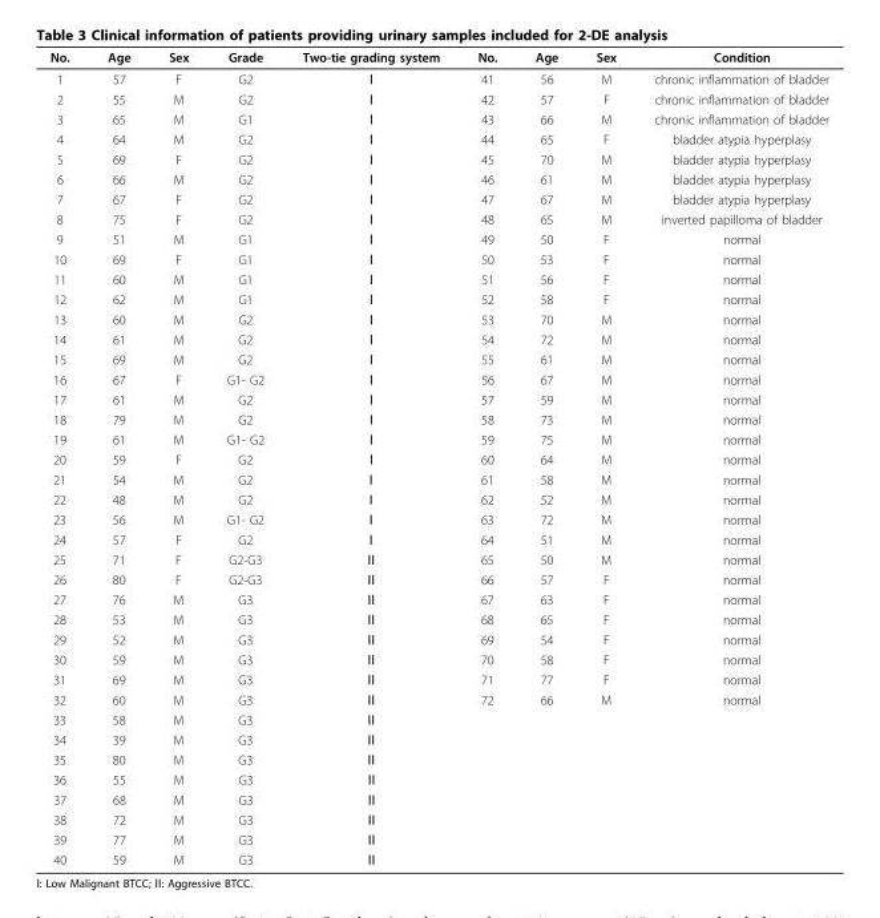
<table><thead><tr><td>No.</td><td>Age</td><td>Sex</td><td>Grade</td><td>Two-tie grading system</td><td>No.</td><td>Age</td><td>Sex</td><td>Condition</td></tr></thead><tbody><tr><td>1</td><td>57</td><td>F</td><td>G2</td><td>Ⅰ</td><td>41</td><td>56</td><td>M</td><td>chronic inflammation of bladder</td></tr><tr><td>2</td><td>55</td><td>M</td><td>G2</td><td>Ⅰ</td><td>42</td><td>57</td><td>F</td><td>chronic inflammation of bladder</td></tr><tr><td>3</td><td>65</td><td>M</td><td>G1</td><td>Ⅰ</td><td>43</td><td>66</td><td>M</td><td>chronic inflammation of bladder</td></tr><tr><td>4</td><td>64</td><td>M</td><td>G2</td><td>Ⅰ</td><td>44</td><td>65</td><td>F</td><td>bladder atypia hyperplasy</td></tr><tr><td>5</td><td>69</td><td>F</td><td>G2</td><td>Ⅰ</td><td>45</td><td>70</td><td>M</td><td>bladder atypia hyperplasy</td></tr><tr><td>6</td><td>66</td><td>M</td><td>G2</td><td>Ⅰ</td><td>46</td><td>61</td><td>M</td><td>bladder atypia hyperplasy</td></tr><tr><td>7</td><td>67</td><td>F</td><td>G2</td><td>Ⅰ</td><td>47</td><td>67</td><td>M</td><td>bladder atypia hyperplasy</td></tr><tr><td>8</td><td>75</td><td>F</td><td>G2</td><td>Ⅰ</td><td>48</td><td>65</td><td>M</td><td>inverted papilloma of bladder</td></tr><tr><td>9</td><td>51</td><td>M</td><td>G1</td><td>Ⅰ</td><td>49</td><td>50</td><td>F</td><td>normal</td></tr><tr><td>10</td><td>69</td><td>F</td><td>G1</td><td>Ⅰ</td><td>50</td><td>53</td><td>F</td><td>normal</td></tr><tr><td>11</td><td>60</td><td>M</td><td>G1</td><td>Ⅰ</td><td>51</td><td>56</td><td>F</td><td>normal</td></tr><tr><td>12</td><td>62</td><td>M</td><td>G1</td><td>Ⅰ</td><td>52</td><td>58</td><td>F</td><td>normal</td></tr><tr><td>13</td><td>60</td><td>M</td><td>G2</td><td>Ⅰ</td><td>53</td><td>70</td><td>M</td><td>normal</td></tr><tr><td>14</td><td>61</td><td>M</td><td>G2</td><td>Ⅰ</td><td>54</td><td>72</td><td>M</td><td>normal</td></tr><tr><td>15</td><td>69</td><td>M</td><td>G2</td><td>Ⅰ</td><td>55</td><td>61</td><td>M</td><td>normal</td></tr><tr><td>16</td><td>67</td><td>F</td><td>G1- G2</td><td>Ⅰ</td><td>56</td><td>67</td><td>M</td><td>normal</td></tr><tr><td>17</td><td>61</td><td>M</td><td>G2</td><td>Ⅰ</td><td>57</td><td>59</td><td>M</td><td>normal</td></tr><tr><td>18</td><td>79</td><td>M</td><td>G2</td><td>Ⅰ</td><td>58</td><td>73</td><td>M</td><td>normal</td></tr><tr><td>19</td><td>61</td><td>M</td><td>G1- G2</td><td>Ⅰ</td><td>59</td><td>75</td><td>M</td><td>normal</td></tr><tr><td>20</td><td>59</td><td>F</td><td>G2</td><td>Ⅰ</td><td>60</td><td>64</td><td>M</td><td>normal</td></tr><tr><td>21</td><td>54</td><td>M</td><td>G2</td><td>Ⅰ</td><td>61</td><td>58</td><td>M</td><td>normal</td></tr><tr><td>22</td><td>48</td><td>M</td><td>G2</td><td>Ⅰ</td><td>62</td><td>52</td><td>M</td><td>normal</td></tr><tr><td>23</td><td>56</td><td>M</td><td>G1- G2</td><td>Ⅰ</td><td>63</td><td>72</td><td>M</td><td>normal</td></tr><tr><td>24</td><td>57</td><td>F</td><td>G2</td><td>Ⅰ</td><td>64</td><td>51</td><td>M</td><td>normal</td></tr><tr><td>25</td><td>71</td><td>F</td><td>G2-G3</td><td>Ⅱ</td><td>65</td><td>50</td><td>M</td><td>normal</td></tr><tr><td>26</td><td>80</td><td>F</td><td>G2-G3</td><td>Ⅱ</td><td>66</td><td>57</td><td>F</td><td>normal</td></tr><tr><td>27</td><td>76</td><td>M</td><td>G3</td><td>Ⅱ</td><td>67</td><td>63</td><td>F</td><td>normal</td></tr><tr><td>28</td><td>53</td><td>M</td><td>G3</td><td>Ⅱ</td><td>68</td><td>65</td><td>F</td><td>normal</td></tr><tr><td>29</td><td>52</td><td>M</td><td>G3</td><td>Ⅱ</td><td>69</td><td>54</td><td>F</td><td>normal</td></tr><tr><td>30</td><td>59</td><td>M</td><td>G3</td><td>Ⅱ</td><td>70</td><td>58</td><td>F</td><td>normal</td></tr><tr><td>31</td><td>69</td><td>M</td><td>G3</td><td>Ⅱ</td><td>71</td><td>77</td><td>F</td><td>normal</td></tr><tr><td>32</td><td>60</td><td>M</td><td>G3</td><td>Ⅱ</td><td>72</td><td>66</td><td>M</td><td>normal</td></tr><tr><td>33</td><td>58</td><td>M</td><td>G3</td><td>Ⅱ</td><td></td><td></td><td></td><td></td></tr><tr><td>34</td><td>39</td><td>M</td><td>G3</td><td>Ⅱ</td><td></td><td></td><td></td><td></td></tr><tr><td>35</td><td>80</td><td>M</td><td>G3</td><td>Ⅱ</td><td></td><td></td><td></td><td></td></tr><tr><td>36</td><td>55</td><td>M</td><td>G3</td><td>Ⅱ</td><td></td><td></td><td></td><td></td></tr><tr><td>37</td><td>68</td><td>M</td><td>G3</td><td>Ⅱ</td><td></td><td></td><td></td><td></td></tr><tr><td>38</td><td>72</td><td>M</td><td>G3</td><td>Ⅱ</td><td></td><td></td><td></td><td></td></tr><tr><td>39</td><td>77</td><td>M</td><td>G3</td><td>Ⅱ</td><td></td><td></td><td></td><td></td></tr><tr><td>40</td><td>59</td><td>M</td><td>G3</td><td>Ⅱ</td><td></td><td></td><td></td><td></td></tr></tbody></table>